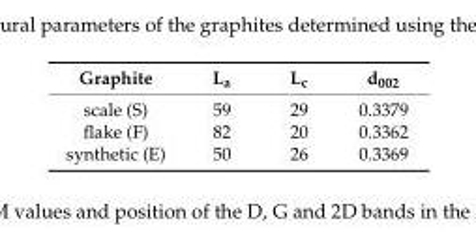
<table><thead><tr><td>Graphite</td><td>L<sub>a</sub></td><td>L<sub>c</sub></td><td>d<sub>002</sub></td></tr></thead><tbody><tr><td>scale (S)</td><td>59</td><td>29</td><td>0.3379</td></tr><tr><td>flake (F)</td><td>82</td><td>20</td><td>0.3362</td></tr><tr><td>synthetic (E)</td><td>50</td><td>26</td><td>0.3369</td></tr></tbody></table>